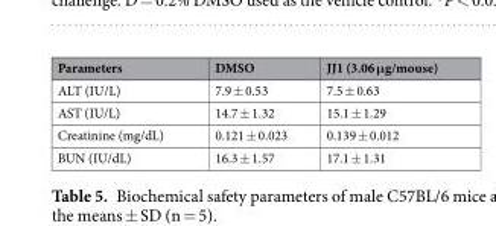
<table><thead><tr><td>Parameters</td><td>DMSO</td><td>JJ1 (3.06 μg/mouse)</td></tr></thead><tbody><tr><td>ALT (IU/L)</td><td>7.9 ± 0.53</td><td>7.5 ± 0.63</td></tr><tr><td>AST (IU/L)</td><td>14.7 ± 1.32</td><td>15.1 ± 1.29</td></tr><tr><td>Creatinine (mg/dL)</td><td>0.121 ± 0.023</td><td>0.139 ± 0.012</td></tr><tr><td>BUN (IU/dL)</td><td>16.3 ± 1.57</td><td>17.1 ± 1.31</td></tr></tbody></table>